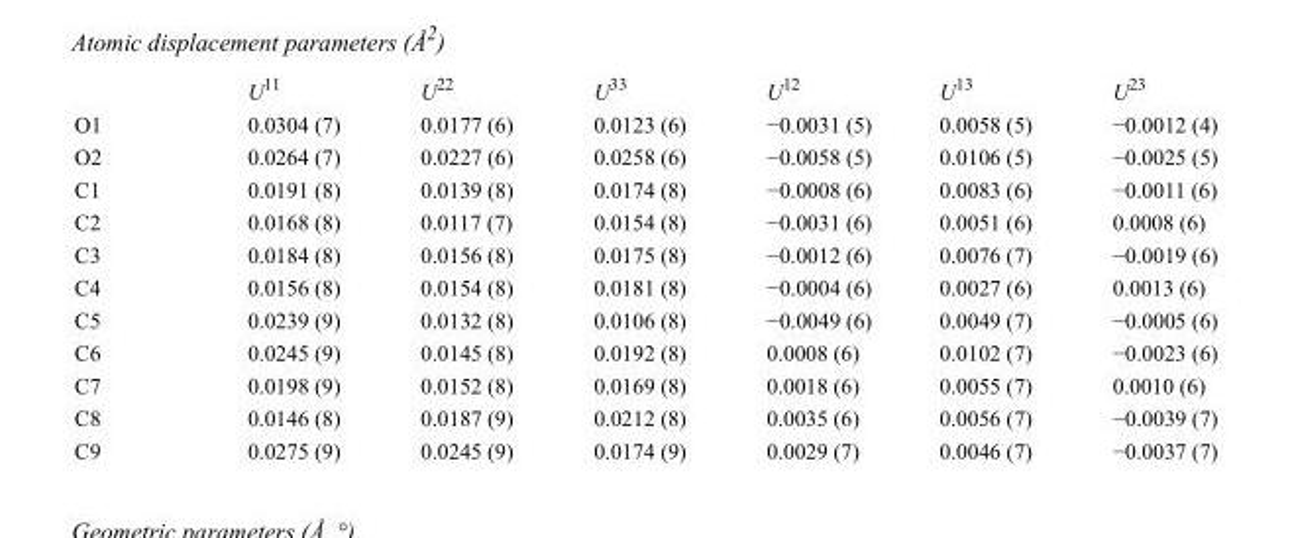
<table><thead><tr><td></td><td>U<sup>11</sup></td><td>U<sup>22</sup></td><td>U<sup>33</sup></td><td>U<sup>12</sup></td><td>U<sup>13</sup></td><td>U<sup>23</sup></td></tr></thead><tbody><tr><td>O1</td><td>0.0304 (7)</td><td>0.0177 (6)</td><td>0.0123 (6)</td><td>−0.0031 (5)</td><td>0.0058 (5)</td><td>−0.0012 (4)</td></tr><tr><td>O2</td><td>0.0264 (7)</td><td>0.0227 (6)</td><td>0.0258 (6)</td><td>−0.0058 (5)</td><td>0.0106 (5)</td><td>−0.0025 (5)</td></tr><tr><td>C1</td><td>0.0191 (8)</td><td>0.0139 (8)</td><td>0.0174 (8)</td><td>−0.0008 (6)</td><td>0.0083 (6)</td><td>−0.0011 (6)</td></tr><tr><td>C2</td><td>0.0168 (8)</td><td>0.0117 (7)</td><td>0.0154 (8)</td><td>−0.0031 (6)</td><td>0.0051 (6)</td><td>0.0008 (6)</td></tr><tr><td>C3</td><td>0.0184 (8)</td><td>0.0156 (8)</td><td>0.0175 (8)</td><td>−0.0012 (6)</td><td>0.0076 (7)</td><td>−0.0019 (6)</td></tr><tr><td>C4</td><td>0.0156 (8)</td><td>0.0154 (8)</td><td>0.0181 (8)</td><td>−0.0004 (6)</td><td>0.0027 (6)</td><td>0.0013 (6)</td></tr><tr><td>C5</td><td>0.0239 (9)</td><td>0.0132 (8)</td><td>0.0106 (8)</td><td>−0.0049 (6)</td><td>0.0049 (7)</td><td>−0.0005 (6)</td></tr><tr><td>C6</td><td>0.0245 (9)</td><td>0.0145 (8)</td><td>0.0192 (8)</td><td>0.0008 (6)</td><td>0.0102 (7)</td><td>−0.0023 (6)</td></tr><tr><td>C7</td><td>0.0198 (9)</td><td>0.0152 (8)</td><td>0.0169 (8)</td><td>0.0018 (6)</td><td>0.0055 (7)</td><td>0.0010 (6)</td></tr><tr><td>C8</td><td>0.0146 (8)</td><td>0.0187 (9)</td><td>0.0212 (8)</td><td>0.0035 (6)</td><td>0.0056 (7)</td><td>−0.0039 (7)</td></tr><tr><td>C9</td><td>0.0275 (9)</td><td>0.0245 (9)</td><td>0.0174 (9)</td><td>0.0029 (7)</td><td>0.0046 (7)</td><td>−0.0037 (7)</td></tr></tbody></table>